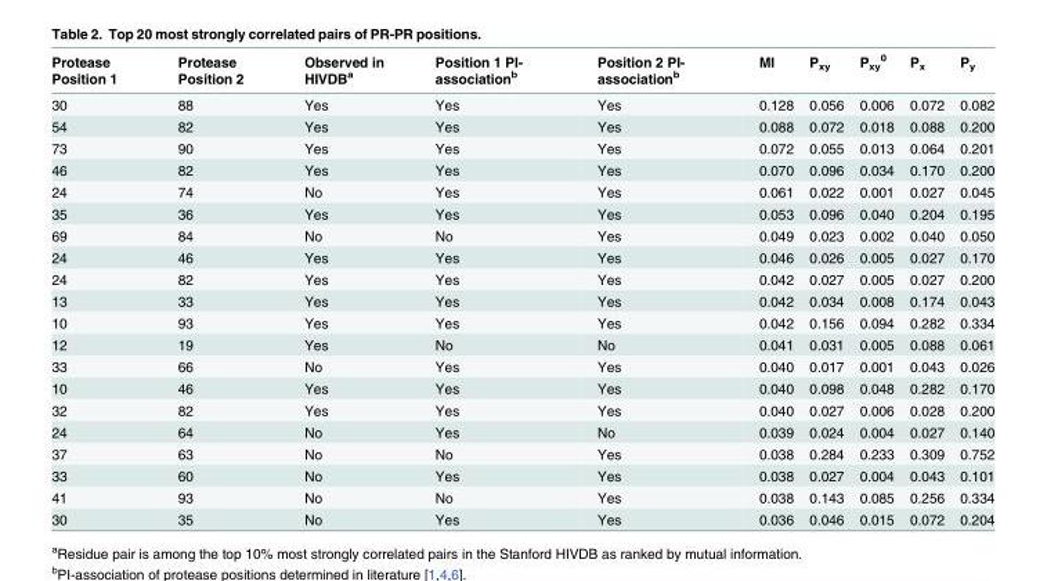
<table><thead><tr><td>Protease Position 1</td><td>Protease Position 2</td><td>Observed in HIVDB<sup>a</sup></td><td>Position 1 PI- association<sup>b</sup></td><td>Position 2 PI- association<sup>b</sup></td><td>MI</td><td>P<sub>xy</sub></td><td>P<sub>xy</sub> <sup>0</sup></td><td>P<sub>x</sub></td><td>P<sub>y</sub></td></tr></thead><tbody><tr><td>30</td><td>88</td><td>Yes</td><td>Yes</td><td>Yes</td><td>0.128</td><td>0.056</td><td>0.006</td><td>0.072</td><td>0.082</td></tr><tr><td>54</td><td>82</td><td>Yes</td><td>Yes</td><td>Yes</td><td>0.088</td><td>0.072</td><td>0.018</td><td>0.088</td><td>0.200</td></tr><tr><td>73</td><td>90</td><td>Yes</td><td>Yes</td><td>Yes</td><td>0.072</td><td>0.055</td><td>0.013</td><td>0.064</td><td>0.201</td></tr><tr><td>46</td><td>82</td><td>Yes</td><td>Yes</td><td>Yes</td><td>0.070</td><td>0.096</td><td>0.034</td><td>0.170</td><td>0.200</td></tr><tr><td>24</td><td>74</td><td>No</td><td>Yes</td><td>Yes</td><td>0.061</td><td>0.022</td><td>0.001</td><td>0.027</td><td>0.045</td></tr><tr><td>35</td><td>36</td><td>Yes</td><td>Yes</td><td>Yes</td><td>0.053</td><td>0.096</td><td>0.040</td><td>0.204</td><td>0.195</td></tr><tr><td>69</td><td>84</td><td>No</td><td>No</td><td>Yes</td><td>0.049</td><td>0.023</td><td>0.002</td><td>0.040</td><td>0.050</td></tr><tr><td>24</td><td>46</td><td>Yes</td><td>Yes</td><td>Yes</td><td>0.046</td><td>0.026</td><td>0.005</td><td>0.027</td><td>0.170</td></tr><tr><td>24</td><td>82</td><td>Yes</td><td>Yes</td><td>Yes</td><td>0.042</td><td>0.027</td><td>0.005</td><td>0.027</td><td>0.200</td></tr><tr><td>13</td><td>33</td><td>Yes</td><td>Yes</td><td>Yes</td><td>0.042</td><td>0.034</td><td>0.008</td><td>0.174</td><td>0.043</td></tr><tr><td>10</td><td>93</td><td>Yes</td><td>Yes</td><td>Yes</td><td>0.042</td><td>0.156</td><td>0.094</td><td>0.282</td><td>0.334</td></tr><tr><td>12</td><td>19</td><td>Yes</td><td>No</td><td>No</td><td>0.041</td><td>0.031</td><td>0.005</td><td>0.088</td><td>0.061</td></tr><tr><td>33</td><td>66</td><td>No</td><td>Yes</td><td>Yes</td><td>0.040</td><td>0.017</td><td>0.001</td><td>0.043</td><td>0.026</td></tr><tr><td>10</td><td>46</td><td>Yes</td><td>Yes</td><td>Yes</td><td>0.040</td><td>0.098</td><td>0.048</td><td>0.282</td><td>0.170</td></tr><tr><td>32</td><td>82</td><td>Yes</td><td>Yes</td><td>Yes</td><td>0.040</td><td>0.027</td><td>0.006</td><td>0.028</td><td>0.200</td></tr><tr><td>24</td><td>64</td><td>No</td><td>Yes</td><td>No</td><td>0.039</td><td>0.024</td><td>0.004</td><td>0.027</td><td>0.140</td></tr><tr><td>37</td><td>63</td><td>No</td><td>No</td><td>Yes</td><td>0.038</td><td>0.284</td><td>0.233</td><td>0.309</td><td>0.752</td></tr><tr><td>33</td><td>60</td><td>No</td><td>Yes</td><td>Yes</td><td>0.038</td><td>0.027</td><td>0.004</td><td>0.043</td><td>0.101</td></tr><tr><td>41</td><td>93</td><td>No</td><td>No</td><td>Yes</td><td>0.038</td><td>0.143</td><td>0.085</td><td>0.256</td><td>0.334</td></tr><tr><td>30</td><td>35</td><td>No</td><td>Yes</td><td>Yes</td><td>0.036</td><td>0.046</td><td>0.015</td><td>0.072</td><td>0.204</td></tr></tbody></table>